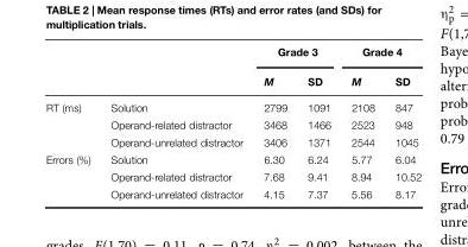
<table><thead><tr><td rowspan="2"></td><td rowspan="2"></td><td colspan="2">Grade 3</td><td colspan="2">Grade 4</td></tr><tr><td>M</td><td>SD</td><td>M</td><td>SD</td></tr></thead><tbody><tr><td rowspan="3">RT (ms)</td><td>Solution</td><td>2799</td><td>1091</td><td>2108</td><td>847</td></tr><tr><td>Operand-related distractor</td><td>3468</td><td>1466</td><td>2523</td><td>948</td></tr><tr><td>Operand-unrelated distractor</td><td>3406</td><td>1371</td><td>2544</td><td>1045</td></tr><tr><td rowspan="3">Errors (%)</td><td>Solution</td><td>6.30</td><td>6.24</td><td>5.77</td><td>6.04</td></tr><tr><td>Operand-related distractor</td><td>7.68</td><td>9.41</td><td>8.94</td><td>10.52</td></tr><tr><td>Operand-unrelated distractor</td><td>4.15</td><td>7.37</td><td>5.56</td><td>8.17</td></tr></tbody></table>